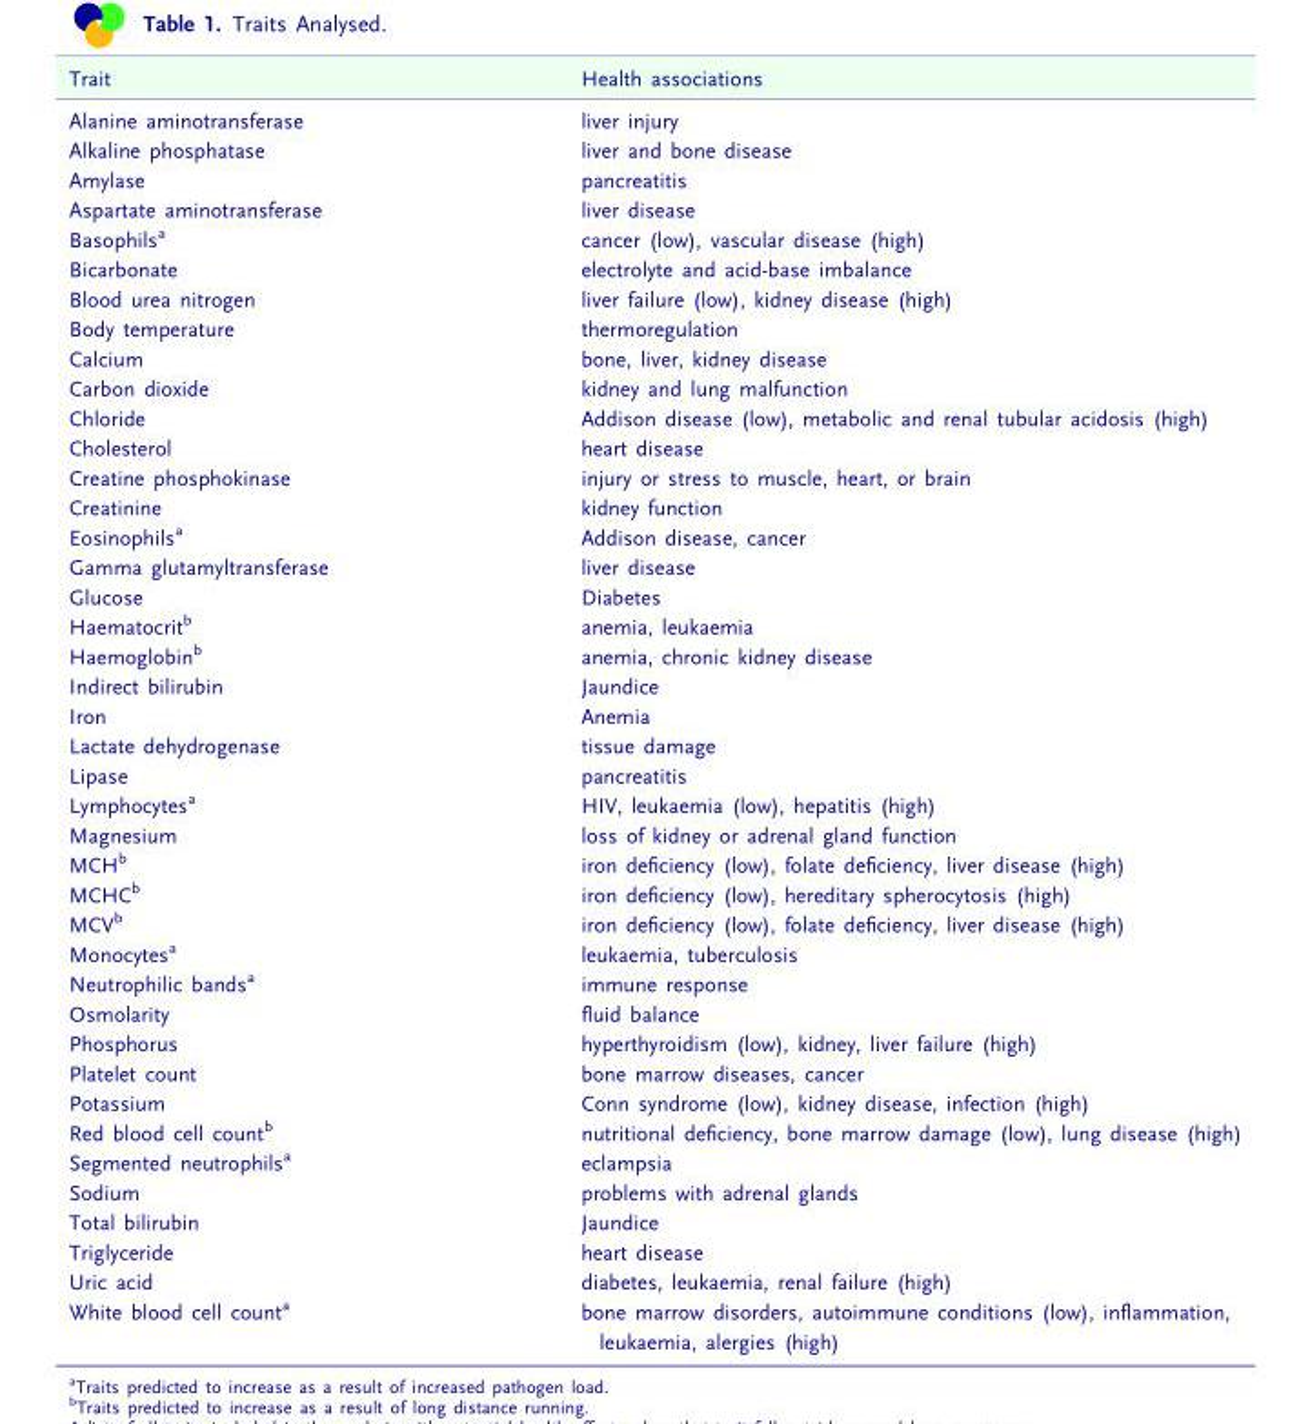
<table><thead><tr><td>Trait</td><td>Health associations</td></tr></thead><tbody><tr><td>Alanine aminotransferase</td><td>liver injury</td></tr><tr><td>Alkaline phosphatase</td><td>liver and bone disease</td></tr><tr><td>Amylase</td><td>pancreatitis</td></tr><tr><td>Aspartate aminotransferase</td><td>liver disease</td></tr><tr><td>Basophils<sup>a</sup></td><td>cancer (low), vascular disease (high)</td></tr><tr><td>Bicarbonate</td><td>electrolyte and acid-base imbalance</td></tr><tr><td>Blood urea nitrogen</td><td>liver failure (low), kidney disease (high)</td></tr><tr><td>Body temperature</td><td>thermoregulation</td></tr><tr><td>Calcium</td><td>bone, liver, kidney disease</td></tr><tr><td>Carbon dioxide</td><td>kidney and lung malfunction</td></tr><tr><td>Chloride</td><td>Addison disease (low), metabolic and renal tubular acidosis (high)</td></tr><tr><td>Cholesterol</td><td>heart disease</td></tr><tr><td>Creatine phosphokinase</td><td>injury or stress to muscle, heart, or brain</td></tr><tr><td>Creatinine</td><td>kidney function</td></tr><tr><td>Eosinophils<sup>a</sup></td><td>Addison disease, cancer</td></tr><tr><td>Gamma glutamyltransferase</td><td>liver disease</td></tr><tr><td>Glucose</td><td>Diabetes</td></tr><tr><td>Haematocrit<sup>b</sup></td><td>anemia, leukaemia</td></tr><tr><td>Haemoglobin<sup>b</sup></td><td>anemia, chronic kidney disease</td></tr><tr><td>Indirect bilirubin</td><td>Jaundice</td></tr><tr><td>Iron</td><td>Anemia</td></tr><tr><td>Lactate dehydrogenase</td><td>tissue damage</td></tr><tr><td>Lipase</td><td>pancreatitis</td></tr><tr><td>Lymphocytes<sup>a</sup></td><td>HIV, leukaemia (low), hepatitis (high)</td></tr><tr><td>Magnesium</td><td>loss of kidney or adrenal gland function</td></tr><tr><td>MCH<sup>b</sup></td><td>iron deficiency (low), folate deficiency, liver disease (high)</td></tr><tr><td>MCHC<sup>b</sup></td><td>iron deficiency (low), hereditary spherocytosis (high)</td></tr><tr><td>MCV<sup>b</sup></td><td>iron deficiency (low), folate deficiency, liver disease (high)</td></tr><tr><td>Monocytes<sup>a</sup></td><td>leukaemia, tuberculosis</td></tr><tr><td>Neutrophilic bands<sup>a</sup></td><td>immune response</td></tr><tr><td>Osmolarity</td><td>fluid balance</td></tr><tr><td>Phosphorus</td><td>hyperthyroidism (low), kidney, liver failure (high)</td></tr><tr><td>Platelet count</td><td>bone marrow diseases, cancer</td></tr><tr><td>Potassium</td><td>Conn syndrome (low), kidney disease, infection (high)</td></tr><tr><td>Red blood cell count<sup>b</sup></td><td>nutritional deficiency, bone marrow damage (low), lung disease (high)</td></tr><tr><td>Segmented neutrophils<sup>a</sup></td><td>eclampsia</td></tr><tr><td>Sodium</td><td>problems with adrenal glands</td></tr><tr><td>Total bilirubin</td><td>Jaundice</td></tr><tr><td>Triglyceride</td><td>heart disease</td></tr><tr><td>Uric acid</td><td>diabetes, leukaemia, renal failure (high)</td></tr><tr><td>White blood cell count<sup>a</sup></td><td>bone marrow disorders, autoimmune conditions (low), inflammation, leukaemia, alergies (high)</td></tr></tbody></table>